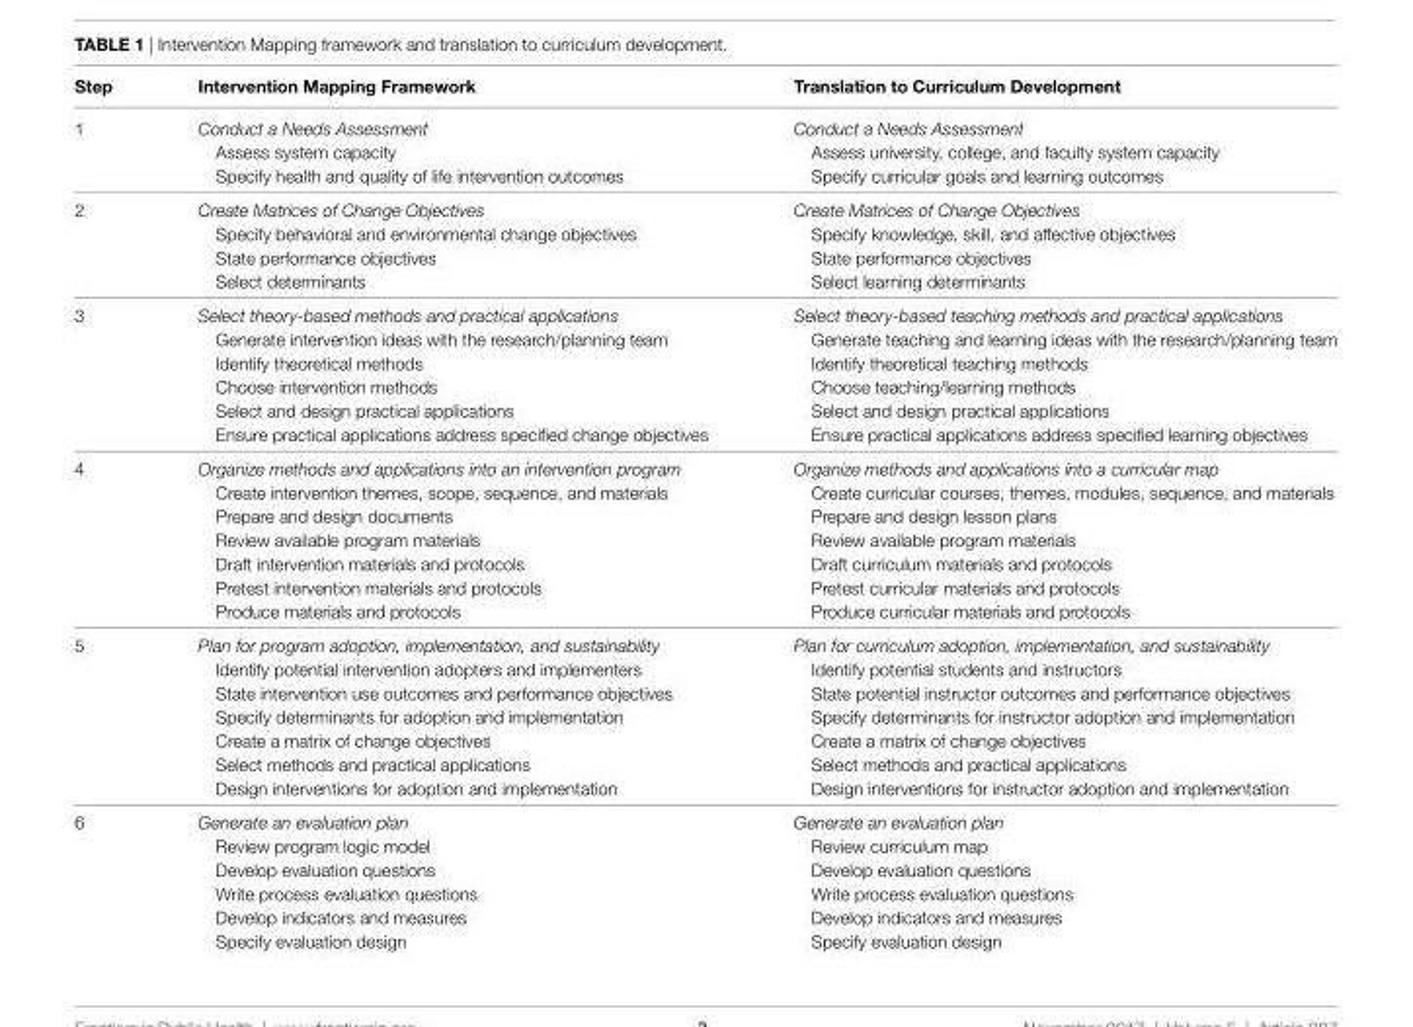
<table><thead><tr><td>step</td><td>intervention mapping Framework</td><td>translation to Curriculum development</td></tr></thead><tbody><tr><td>1</td><td>Conduct a Needs Assessment Assess system capacity Specify health and quality of life intervention outcomes</td><td>Conduct a Needs Assessment Assess university, college, and faculty system capacity Specify curricular goals and learning outcomes</td></tr><tr><td>2</td><td>Create Matrices of Change Objectives Specify behavioral and environmental change objectives State performance objectives Select determinants</td><td>Create Matrices of Change Objectives Specify knowledge, skill, and affective objectives State performance objectives Select learning determinants</td></tr><tr><td>3</td><td>Select theory-based methods and practical applications Generate intervention ideas with the research/planning team Identify theoretical methods Choose intervention methods Select and design practical applications Ensure practical applications address specified change objectives</td><td>Select theory-based teaching methods and practical applications Generate teaching and learning ideas with the research/planning team Identify theoretical teaching methods Choose teaching/learning methods Select and design practical applications Ensure practical applications address specified learning objectives</td></tr><tr><td>4</td><td>Organize methods and applications into an intervention program Create intervention themes, scope, sequence, and materials Prepare and design documents Review available program materials Draft intervention materials and protocols Pretest intervention materials and protocols Produce materials and protocols</td><td>Organize methods and applications into a curricular map Create curricular courses, themes, modules, sequence, and materials Prepare and design lesson plans Review available program materials Draft curriculum materials and protocols Pretest curricular materials and protocols Produce curricular materials and protocols</td></tr><tr><td>5</td><td>Plan for program adoption, implementation, and sustainability Identify potential intervention adopters and implementers State intervention use outcomes and performance objectives Specify determinants for adoption and implementation Create a matrix of change objectives Select methods and practical applications Design interventions for adoption and implementation</td><td>Plan for curriculum adoption, implementation, and sustainability Identify potential students and instructors State potential instructor outcomes and performance objectives Specify determinants for instructor adoption and implementation Create a matrix of change objectives Select methods and practical applications Design interventions for instructor adoption and implementation</td></tr><tr><td>6</td><td>Generate an evaluation plan Review program logic model Develop evaluation questions Write process evaluation questions Develop indicators and measures Specify evaluation design</td><td>Generate an evaluation plan Review curriculum map Develop evaluation questions Write process evaluation questions Develop indicators and measures Specify evaluation design</td></tr></tbody></table>